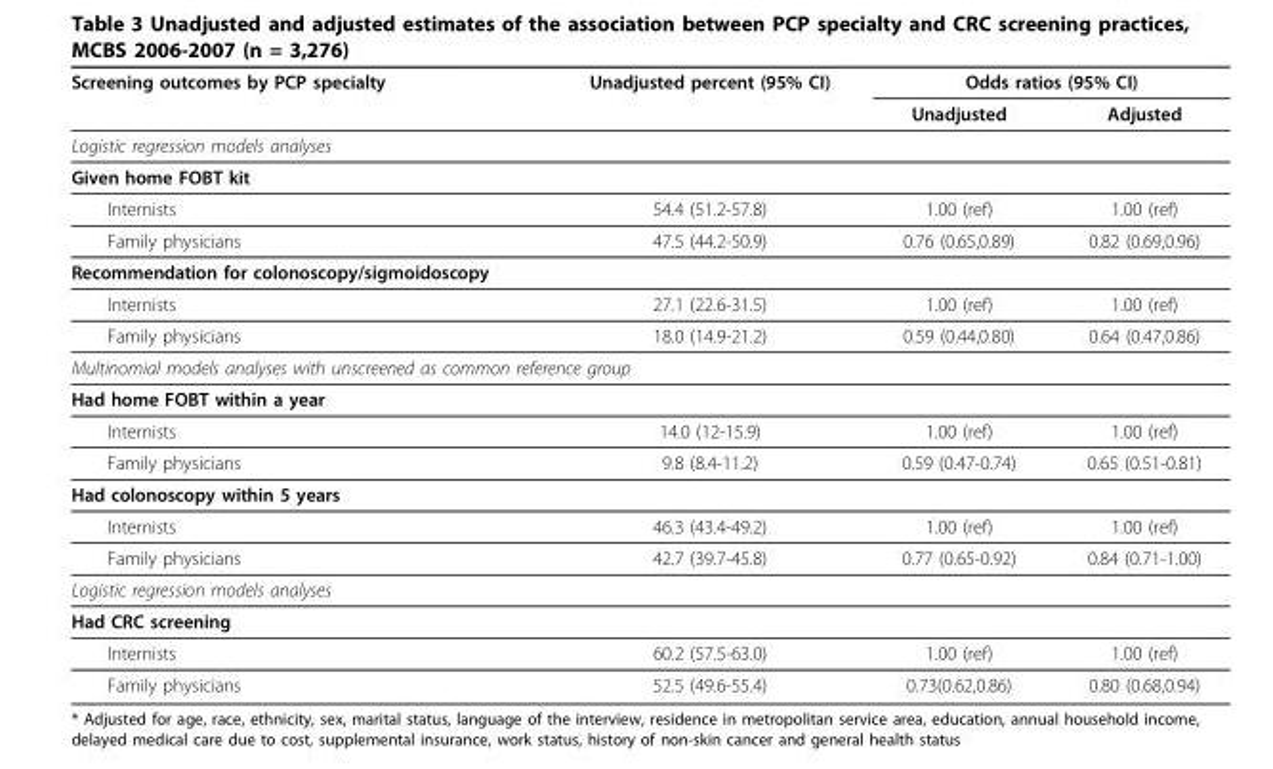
<table><thead><tr><td rowspan="2">Screening outcomes by PCP specialty</td><td rowspan="2">Unadjusted percent (95% CI)</td><td colspan="2">Odds ratios (95% CI)</td></tr><tr><td>Unadjusted</td><td>Adjusted</td></tr></thead><tbody><tr><td colspan="4">Logistic regression models analyses</td></tr><tr><td colspan="4">Given home FOBT kit</td></tr><tr><td>Internists</td><td>54.4 (51.2-57.8)</td><td>1.00 (ref)</td><td>1.00 (ref)</td></tr><tr><td>Family physicians</td><td>47.5 (44.2-50.9)</td><td>0.76 (0.65,0.89)</td><td>0.82 (0.69,0.96)</td></tr><tr><td colspan="4">Recommendation for colonoscopy/sigmoidoscopy</td></tr><tr><td>Internists</td><td>27.1 (22.6-31.5)</td><td>1.00 (ref)</td><td>1.00 (ref)</td></tr><tr><td>Family physicians</td><td>18.0 (14.9-21.2)</td><td>0.59 (0.44,0.80)</td><td>0.64 (0.47,0.86)</td></tr><tr><td colspan="4">Multinomial models analyses with unscreened as common reference group</td></tr><tr><td colspan="4">Had home FOBT within a year</td></tr><tr><td>Internists</td><td>14.0 (12-15.9)</td><td>1.00 (ref)</td><td>1.00 (ref)</td></tr><tr><td>Family physicians</td><td>9.8 (8.4-11.2)</td><td>0.59 (0.47-0.74)</td><td>0.65 (0.51-0.81)</td></tr><tr><td colspan="4">Had colonoscopy within 5 years</td></tr><tr><td>Internists</td><td>46.3 (43.4-49.2)</td><td>1.00 (ref)</td><td>1.00 (ref)</td></tr><tr><td>Family physicians</td><td>42.7 (39.7-45.8)</td><td>0.77 (0.65-0.92)</td><td>0.84 (0.71-1.00)</td></tr><tr><td colspan="4">Logistic regression models analyses</td></tr><tr><td colspan="4">Had CRC screening</td></tr><tr><td>Internists</td><td>60.2 (57.5-63.0)</td><td>1.00 (ref)</td><td>1.00 (ref)</td></tr><tr><td>Family physicians</td><td>52.5 (49.6-55.4)</td><td>0.73(0.62,0.86)</td><td>0.80 (0.68,0.94)</td></tr></tbody></table>